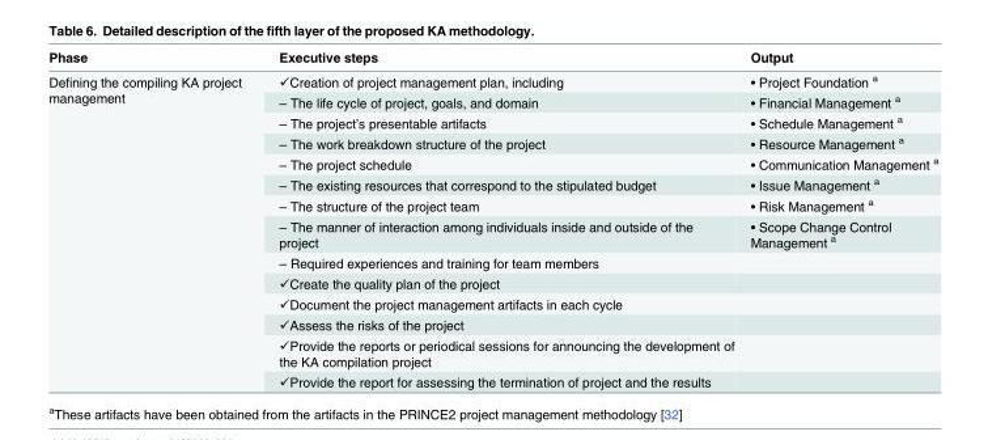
<table><thead><tr><td>Phase</td><td>Executive steps</td><td>Output</td></tr></thead><tbody><tr><td rowspan="14">Defining the compiling KA project management</td><td>✓Creation of project management plan, including</td><td>• Project Foundation <sup>a</sup></td></tr><tr><td>– The life cycle of project, goals, and domain</td><td>• Financial Management <sup>a</sup></td></tr><tr><td>– The project’s presentable artifacts</td><td>• Schedule Management <sup>a</sup></td></tr><tr><td>– The work breakdown structure of the project</td><td>• Resource Management <sup>a</sup></td></tr><tr><td>– The project schedule</td><td>• Communication Management <sup>a</sup></td></tr><tr><td>– The existing resources that correspond to the stipulated budget</td><td>• Issue Management <sup>a</sup></td></tr><tr><td>– The structure of the project team</td><td>• Risk Management <sup>a</sup></td></tr><tr><td>– The manner of interaction among individuals inside and outside of the project</td><td>• Scope Change Control Management <sup>a</sup></td></tr><tr><td>– Required experiences and training for team members</td><td></td></tr><tr><td>✓Create the quality plan of the project</td><td></td></tr><tr><td>✓Document the project management artifacts in each cycle</td><td></td></tr><tr><td>✓Assess the risks of the project</td><td></td></tr><tr><td>✓Provide the reports or periodical sessions for announcing the development of the KA compilation project</td><td></td></tr><tr><td>✓Provide the report for assessing the termination of project and the results</td><td></td></tr></tbody></table>